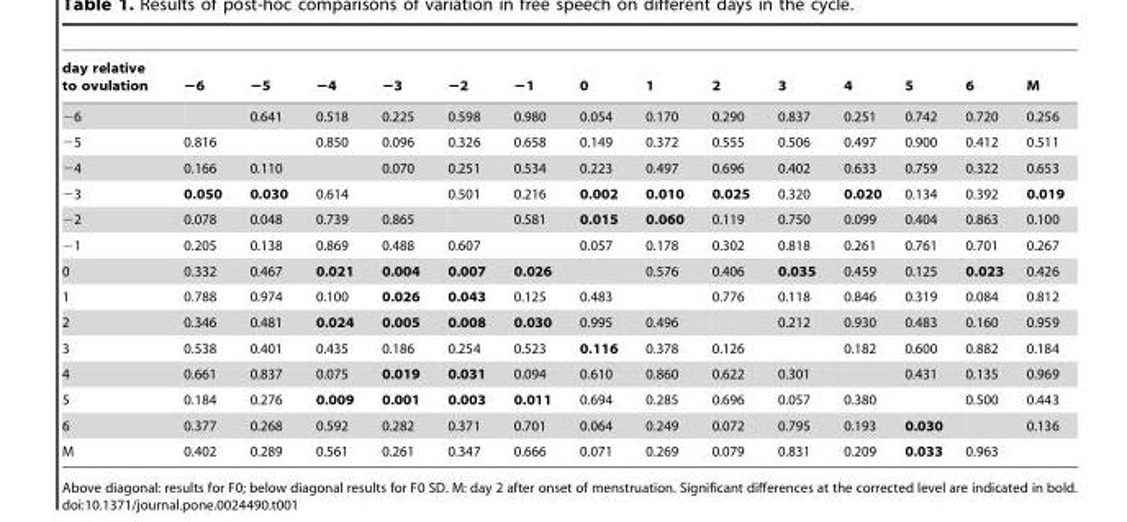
<table><thead><tr><td>day relative to ovulation</td><td>−6</td><td>−5</td><td>−4</td><td>−3</td><td>−2</td><td>−1</td><td>0</td><td>1</td><td>2</td><td>3</td><td>4</td><td>5</td><td>6</td><td>M</td></tr></thead><tbody><tr><td>−6</td><td></td><td>0.641</td><td>0.518</td><td>0.225</td><td>0.598</td><td>0.980</td><td>0.054</td><td>0.170</td><td>0.290</td><td>0.837</td><td>0.251</td><td>0.742</td><td>0.720</td><td>0.256</td></tr><tr><td>−5</td><td>0.816</td><td></td><td>0.850</td><td>0.096</td><td>0.326</td><td>0.658</td><td>0.149</td><td>0.372</td><td>0.555</td><td>0.506</td><td>0.497</td><td>0.900</td><td>0.412</td><td>0.511</td></tr><tr><td>−4</td><td>0.166</td><td>0.110</td><td></td><td>0.070</td><td>0.251</td><td>0.534</td><td>0.223</td><td>0.497</td><td>0.696</td><td>0.402</td><td>0.633</td><td>0.759</td><td>0.322</td><td>0.653</td></tr><tr><td>−3</td><td>0.050</td><td>0.030</td><td>0.614</td><td></td><td>0.501</td><td>0.216</td><td>0.002</td><td>0.010</td><td>0.025</td><td>0.320</td><td>0.020</td><td>0.134</td><td>0.392</td><td>0.019</td></tr><tr><td>−2</td><td>0.078</td><td>0.048</td><td>0.739</td><td>0.865</td><td></td><td>0.581</td><td>0.015</td><td>0.060</td><td>0.119</td><td>0.750</td><td>0.099</td><td>0.404</td><td>0.863</td><td>0.100</td></tr><tr><td>−1</td><td>0.205</td><td>0.138</td><td>0.869</td><td>0.488</td><td>0.607</td><td></td><td>0.057</td><td>0.178</td><td>0.302</td><td>0.818</td><td>0.261</td><td>0.761</td><td>0.701</td><td>0.267</td></tr><tr><td>0</td><td>0.332</td><td>0.467</td><td>0.021</td><td>0.004</td><td>0.007</td><td>0.026</td><td></td><td>0.576</td><td>0.406</td><td>0.035</td><td>0.459</td><td>0.125</td><td>0.023</td><td>0.426</td></tr><tr><td>1</td><td>0.788</td><td>0.974</td><td>0.100</td><td>0.026</td><td>0.043</td><td>0.125</td><td>0.483</td><td></td><td>0.776</td><td>0.118</td><td>0.846</td><td>0.319</td><td>0.084</td><td>0.812</td></tr><tr><td>2</td><td>0.346</td><td>0.481</td><td>0.024</td><td>0.005</td><td>0.008</td><td>0.030</td><td>0.995</td><td>0.496</td><td></td><td>0.212</td><td>0.930</td><td>0.483</td><td>0.160</td><td>0.959</td></tr><tr><td>3</td><td>0.538</td><td>0.401</td><td>0.435</td><td>0.186</td><td>0.254</td><td>0.523</td><td>0.116</td><td>0.378</td><td>0.126</td><td></td><td>0.182</td><td>0.600</td><td>0.882</td><td>0.184</td></tr><tr><td>4</td><td>0.661</td><td>0.837</td><td>0.075</td><td>0.019</td><td>0.031</td><td>0.094</td><td>0.610</td><td>0.860</td><td>0.622</td><td>0.301</td><td></td><td>0.431</td><td>0.135</td><td>0.969</td></tr><tr><td>5</td><td>0.184</td><td>0.276</td><td>0.009</td><td>0.001</td><td>0.003</td><td>0.011</td><td>0.694</td><td>0.285</td><td>0.696</td><td>0.057</td><td>0.380</td><td></td><td>0.500</td><td>0.443</td></tr><tr><td>6</td><td>0.377</td><td>0.268</td><td>0.592</td><td>0.282</td><td>0.371</td><td>0.701</td><td>0.064</td><td>0.249</td><td>0.072</td><td>0.795</td><td>0.193</td><td>0.030</td><td></td><td>0.136</td></tr><tr><td>M</td><td>0.402</td><td>0.289</td><td>0.561</td><td>0.261</td><td>0.347</td><td>0.666</td><td>0.071</td><td>0.269</td><td>0.079</td><td>0.831</td><td>0.209</td><td>0.033</td><td>0.963</td><td></td></tr></tbody></table>